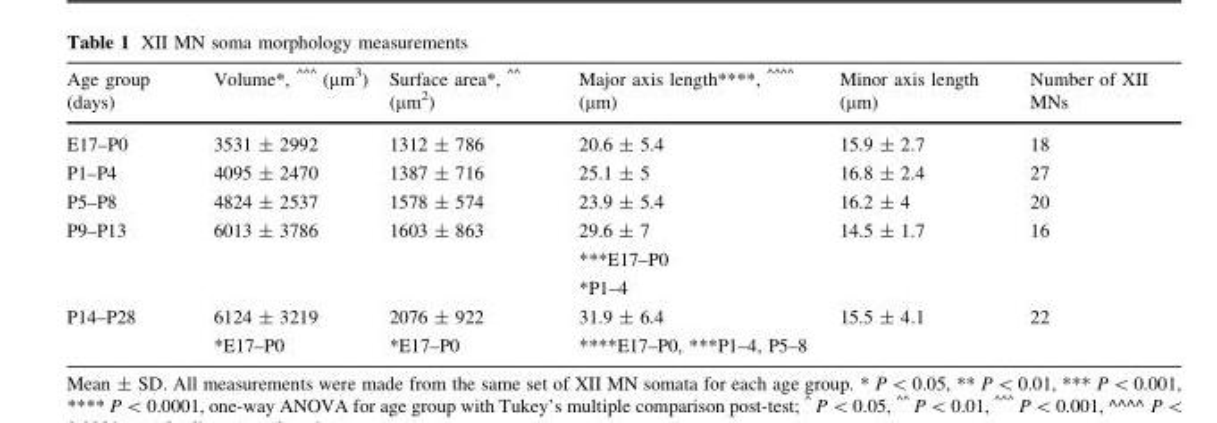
<table><thead><tr><td>Age group (days)</td><td>Volume*, ^^^ (μm3)</td><td>Surface area*, ^^ (μm2)</td><td>Major axis length****, ^^^^ (μm)</td><td>Minor axis length (μm)</td><td>Number of XII MNs</td></tr></thead><tbody><tr><td>E17–P0</td><td>3531 ± 2992</td><td>1312 ± 786</td><td>20.6 ± 5.4</td><td>15.9 ± 2.7</td><td>18</td></tr><tr><td>P1–P4</td><td>4095 ± 2470</td><td>1387 ± 716</td><td>25.1 ± 5</td><td>16.8 ± 2.4</td><td>27</td></tr><tr><td>P5–P8</td><td>4824 ± 2537</td><td>1578 ± 574</td><td>23.9 ± 5.4</td><td>16.2 ± 4</td><td>20</td></tr><tr><td>P9–P13</td><td>6013 ± 3786</td><td>1603 ± 863</td><td>29.6 ± 7 ***E17–P0 *P1–4</td><td>14.5 ± 1.7</td><td>16</td></tr><tr><td>P14–P28</td><td>6124 ± 3219 *E17–P0</td><td>2076 ± 922 *E17–P0</td><td>31.9 ± 6.4 ****E17–P0, ***P1–4, P5–8</td><td>15.5 ± 4.1</td><td>22</td></tr></tbody></table>